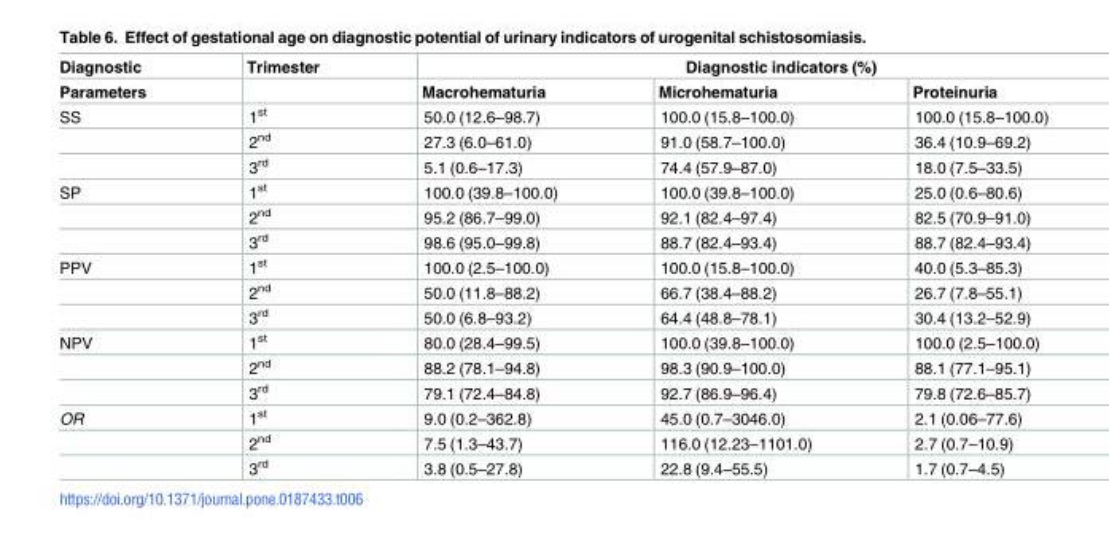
<table><thead><tr><td rowspan="2">Diagnostic Parameters</td><td rowspan="2">Trimester</td><td colspan="3">Diagnostic indicators (%)</td></tr><tr><td>Macrohematuria</td><td>Microhematuria</td><td>Proteinuria</td></tr></thead><tbody><tr><td rowspan="3">SS</td><td>1<sup>st</sup></td><td>50.0 (12.6–98.7)</td><td>100.0 (15.8–100.0)</td><td>100.0 (15.8–100.0)</td></tr><tr><td>2<sup>nd</sup></td><td>27.3 (6.0–61.0)</td><td>91.0 (58.7–100.0)</td><td>36.4 (10.9–69.2)</td></tr><tr><td>3<sup>rd</sup></td><td>5.1 (0.6–17.3)</td><td>74.4 (57.9–87.0)</td><td>18.0 (7.5–33.5)</td></tr><tr><td rowspan="3">SP</td><td>1<sup>st</sup></td><td>100.0 (39.8–100.0)</td><td>100.0 (39.8–100.0)</td><td>25.0 (0.6–80.6)</td></tr><tr><td>2<sup>nd</sup></td><td>95.2 (86.7–99.0)</td><td>92.1 (82.4–97.4)</td><td>82.5 (70.9–91.0)</td></tr><tr><td>3<sup>rd</sup></td><td>98.6 (95.0–99.8)</td><td>88.7 (82.4–93.4)</td><td>88.7 (82.4–93.4)</td></tr><tr><td rowspan="3">PPV</td><td>1<sup>st</sup></td><td>100.0 (2.5–100.0)</td><td>100.0 (15.8–100.0)</td><td>40.0 (5.3–85.3)</td></tr><tr><td>2<sup>nd</sup></td><td>50.0 (11.8–88.2)</td><td>66.7 (38.4–88.2)</td><td>26.7 (7.8–55.1)</td></tr><tr><td>3<sup>rd</sup></td><td>50.0 (6.8–93.2)</td><td>64.4 (48.8–78.1)</td><td>30.4 (13.2–52.9)</td></tr><tr><td rowspan="3">NPV</td><td>1<sup>st</sup></td><td>80.0 (28.4–99.5)</td><td>100.0 (39.8–100.0)</td><td>100.0 (2.5–100.0)</td></tr><tr><td>2<sup>nd</sup></td><td>88.2 (78.1–94.8)</td><td>98.3 (90.9–100.0)</td><td>88.1 (77.1–95.1)</td></tr><tr><td>3<sup>rd</sup></td><td>79.1 (72.4–84.8)</td><td>92.7 (86.9–96.4)</td><td>79.8 (72.6–85.7)</td></tr><tr><td rowspan="3">OR</td><td>1<sup>st</sup></td><td>9.0 (0.2–362.8)</td><td>45.0 (0.7–3046.0)</td><td>2.1 (0.06–77.6)</td></tr><tr><td>2<sup>nd</sup></td><td>7.5 (1.3–43.7)</td><td>116.0 (12.23–1101.0)</td><td>2.7 (0.7–10.9)</td></tr><tr><td>3<sup>rd</sup></td><td>3.8 (0.5–27.8)</td><td>22.8 (9.4–55.5)</td><td>1.7 (0.7–4.5)</td></tr></tbody></table>